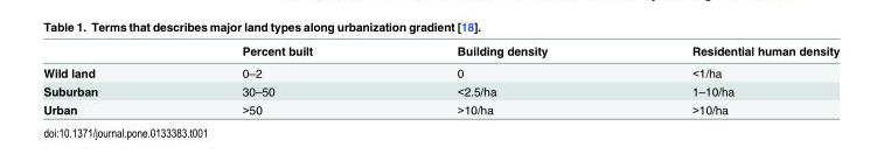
<table><thead><tr><td></td><td>Percent built</td><td>Building density</td><td>Residential human density</td></tr></thead><tbody><tr><td>Wild land</td><td>0–2</td><td>0</td><td>&lt;1/ha</td></tr><tr><td>Suburban</td><td>30–50</td><td>&lt;2.5/ha</td><td>1–10/ha</td></tr><tr><td>Urban</td><td>&gt;50</td><td>&gt;10/ha</td><td>&gt;10/ha</td></tr></tbody></table>